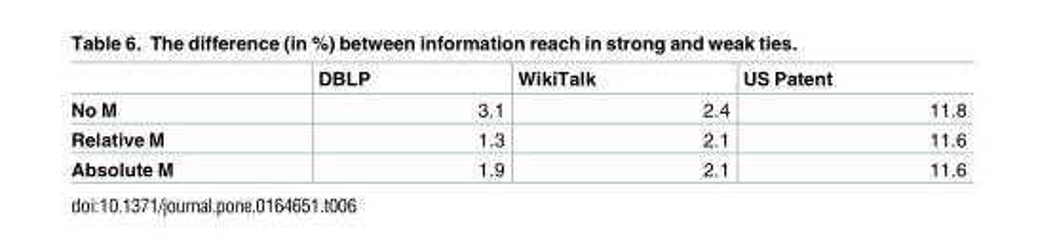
<table><thead><tr><td></td><td>DBLP</td><td>WikiTalk</td><td>US Patent</td></tr></thead><tbody><tr><td>No M</td><td>3.1</td><td>2.4</td><td>11.8</td></tr><tr><td>Relative M</td><td>1.3</td><td>2.1</td><td>11.6</td></tr><tr><td>Absolute M</td><td>1.9</td><td>2.1</td><td>11.6</td></tr></tbody></table>